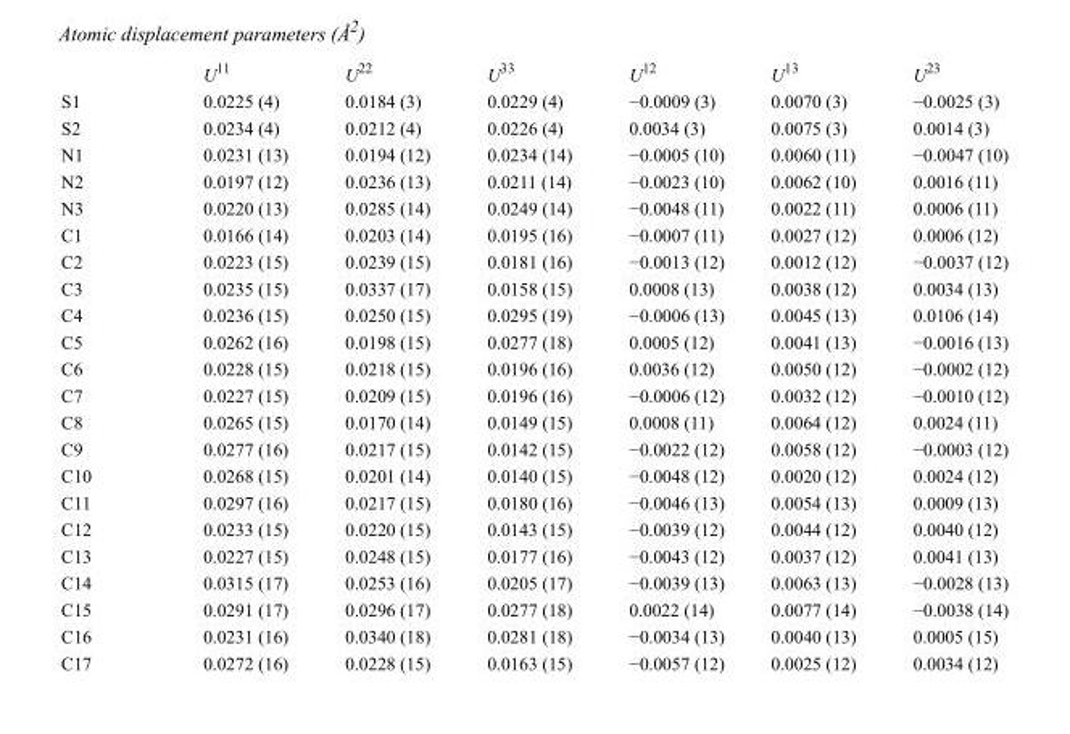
<table><thead><tr><td></td><td>U<sup>11</sup></td><td>U<sup>22</sup></td><td>U<sup>33</sup></td><td>U<sup>12</sup></td><td>U<sup>13</sup></td><td>U<sup>23</sup></td></tr></thead><tbody><tr><td>S1</td><td>0.0225 (4)</td><td>0.0184 (3)</td><td>0.0229 (4)</td><td>−0.0009 (3)</td><td>0.0070 (3)</td><td>−0.0025 (3)</td></tr><tr><td>S2</td><td>0.0234 (4)</td><td>0.0212 (4)</td><td>0.0226 (4)</td><td>0.0034 (3)</td><td>0.0075 (3)</td><td>0.0014 (3)</td></tr><tr><td>N1</td><td>0.0231 (13)</td><td>0.0194 (12)</td><td>0.0234 (14)</td><td>−0.0005 (10)</td><td>0.0060 (11)</td><td>−0.0047 (10)</td></tr><tr><td>N2</td><td>0.0197 (12)</td><td>0.0236 (13)</td><td>0.0211 (14)</td><td>−0.0023 (10)</td><td>0.0062 (10)</td><td>0.0016 (11)</td></tr><tr><td>N3</td><td>0.0220 (13)</td><td>0.0285 (14)</td><td>0.0249 (14)</td><td>−0.0048 (11)</td><td>0.0022 (11)</td><td>0.0006 (11)</td></tr><tr><td>C1</td><td>0.0166 (14)</td><td>0.0203 (14)</td><td>0.0195 (16)</td><td>−0.0007 (11)</td><td>0.0027 (12)</td><td>0.0006 (12)</td></tr><tr><td>C2</td><td>0.0223 (15)</td><td>0.0239 (15)</td><td>0.0181 (16)</td><td>−0.0013 (12)</td><td>0.0012 (12)</td><td>−0.0037 (12)</td></tr><tr><td>C3</td><td>0.0235 (15)</td><td>0.0337 (17)</td><td>0.0158 (15)</td><td>0.0008 (13)</td><td>0.0038 (12)</td><td>0.0034 (13)</td></tr><tr><td>C4</td><td>0.0236 (15)</td><td>0.0250 (15)</td><td>0.0295 (19)</td><td>−0.0006 (13)</td><td>0.0045 (13)</td><td>0.0106 (14)</td></tr><tr><td>C5</td><td>0.0262 (16)</td><td>0.0198 (15)</td><td>0.0277 (18)</td><td>0.0005 (12)</td><td>0.0041 (13)</td><td>−0.0016 (13)</td></tr><tr><td>C6</td><td>0.0228 (15)</td><td>0.0218 (15)</td><td>0.0196 (16)</td><td>0.0036 (12)</td><td>0.0050 (12)</td><td>−0.0002 (12)</td></tr><tr><td>C7</td><td>0.0227 (15)</td><td>0.0209 (15)</td><td>0.0196 (16)</td><td>−0.0006 (12)</td><td>0.0032 (12)</td><td>−0.0010 (12)</td></tr><tr><td>C8</td><td>0.0265 (15)</td><td>0.0170 (14)</td><td>0.0149 (15)</td><td>0.0008 (11)</td><td>0.0064 (12)</td><td>0.0024 (11)</td></tr><tr><td>C9</td><td>0.0277 (16)</td><td>0.0217 (15)</td><td>0.0142 (15)</td><td>−0.0022 (12)</td><td>0.0058 (12)</td><td>−0.0003 (12)</td></tr><tr><td>C10</td><td>0.0268 (15)</td><td>0.0201 (14)</td><td>0.0140 (15)</td><td>−0.0048 (12)</td><td>0.0020 (12)</td><td>0.0024 (12)</td></tr><tr><td>C11</td><td>0.0297 (16)</td><td>0.0217 (15)</td><td>0.0180 (16)</td><td>−0.0046 (13)</td><td>0.0054 (13)</td><td>0.0009 (13)</td></tr><tr><td>C12</td><td>0.0233 (15)</td><td>0.0220 (15)</td><td>0.0143 (15)</td><td>−0.0039 (12)</td><td>0.0044 (12)</td><td>0.0040 (12)</td></tr><tr><td>C13</td><td>0.0227 (15)</td><td>0.0248 (15)</td><td>0.0177 (16)</td><td>−0.0043 (12)</td><td>0.0037 (12)</td><td>0.0041 (13)</td></tr><tr><td>C14</td><td>0.0315 (17)</td><td>0.0253 (16)</td><td>0.0205 (17)</td><td>−0.0039 (13)</td><td>0.0063 (13)</td><td>−0.0028 (13)</td></tr><tr><td>C15</td><td>0.0291 (17)</td><td>0.0296 (17)</td><td>0.0277 (18)</td><td>0.0022 (14)</td><td>0.0077 (14)</td><td>−0.0038 (14)</td></tr><tr><td>C16</td><td>0.0231 (16)</td><td>0.0340 (18)</td><td>0.0281 (18)</td><td>−0.0034 (13)</td><td>0.0040 (13)</td><td>0.0005 (15)</td></tr><tr><td>C17</td><td>0.0272 (16)</td><td>0.0228 (15)</td><td>0.0163 (15)</td><td>−0.0057 (12)</td><td>0.0025 (12)</td><td>0.0034 (12)</td></tr></tbody></table>